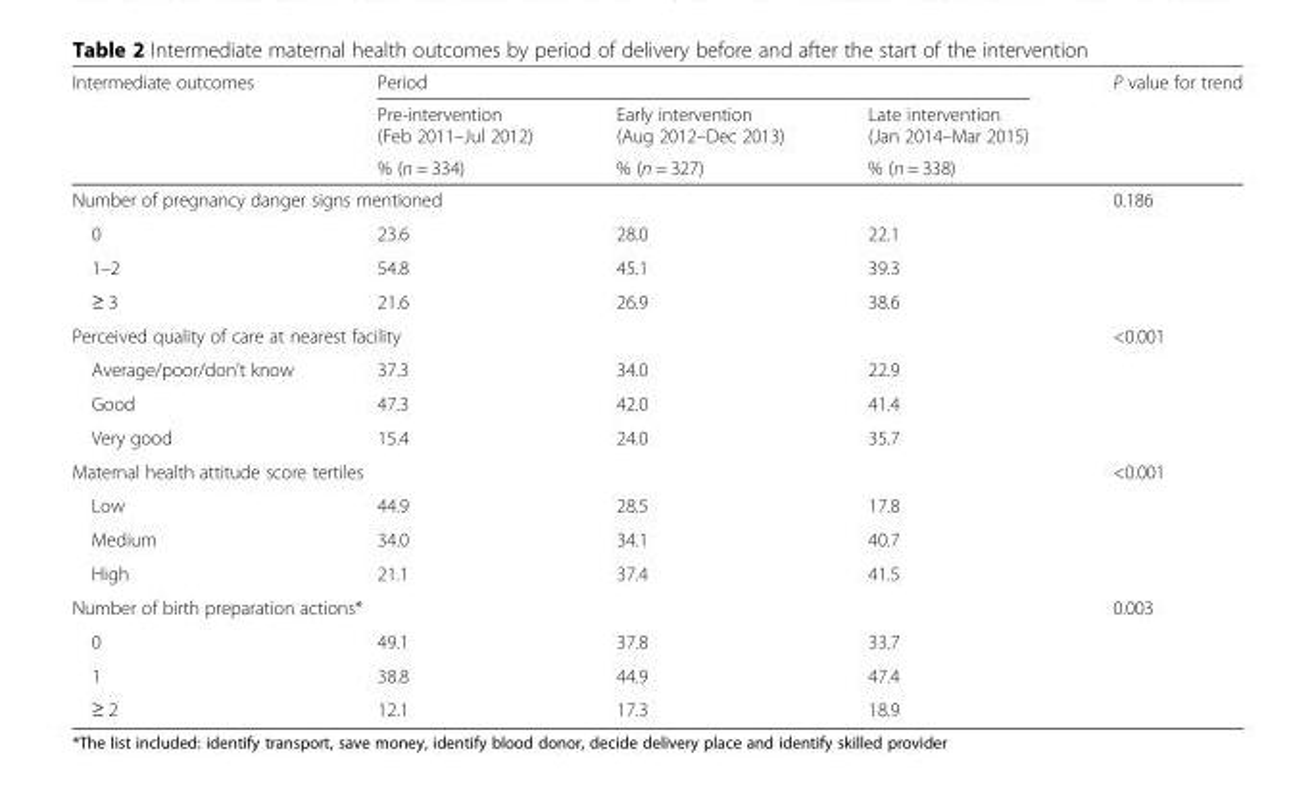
<table><thead><tr><td rowspan="3">Intermediate outcomes</td><td colspan="3">Period</td><td rowspan="3">P value for trend</td></tr><tr><td rowspan="2">Pre-intervention (Feb 2011–Jul 2012) % (n = 334)</td><td rowspan="2">Early intervention (Aug 2012–Dec 2013) % (n = 327)</td><td rowspan="2">Late intervention (Jan 2014–Mar 2015) % (n = 338)</td></tr><tr></tr></thead><tbody><tr><td colspan="4">Number of pregnancy danger signs mentioned</td><td rowspan="4">0.186</td></tr><tr><td>0</td><td>23.6</td><td>28.0</td><td>22.1</td></tr><tr><td>1–2</td><td>54.8</td><td>45.1</td><td>39.3</td></tr><tr><td>≥ 3</td><td>21.6</td><td>26.9</td><td>38.6</td></tr><tr><td colspan="4">Perceived quality of care at nearest facility</td><td rowspan="4">&lt;0.001</td></tr><tr><td>Average/poor/don’t know</td><td>37.3</td><td>34.0</td><td>22.9</td></tr><tr><td>Good</td><td>47.3</td><td>42.0</td><td>41.4</td></tr><tr><td>Very good</td><td>15.4</td><td>24.0</td><td>35.7</td></tr><tr><td colspan="4">Maternal health attitude score tertiles</td><td rowspan="4">&lt;0.001</td></tr><tr><td>Low</td><td>44.9</td><td>28.5</td><td>17.8</td></tr><tr><td>Medium</td><td>34.0</td><td>34.1</td><td>40.7</td></tr><tr><td>High</td><td>21.1</td><td>37.4</td><td>41.5</td></tr><tr><td colspan="4">Number of birth preparation actions*</td><td rowspan="4">0.003</td></tr><tr><td>0</td><td>49.1</td><td>37.8</td><td>33.7</td></tr><tr><td>1</td><td>38.8</td><td>44.9</td><td>47.4</td></tr><tr><td>≥ 2</td><td>12.1</td><td>17.3</td><td>18.9</td></tr></tbody></table>